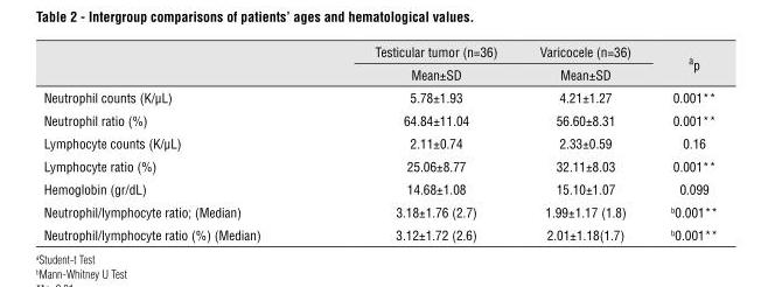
<table><thead><tr><td rowspan="2"></td><td rowspan="2">Testicular tumor (n=36) Mean±SD</td><td rowspan="2">Varicocele (n=36) Mean±SD</td><td rowspan="2"><sup>a</sup>p</td></tr><tr></tr></thead><tbody><tr><td>Neutrophil counts (K/µL)</td><td>5.78±1.93</td><td>4.21±1.27</td><td>0.001**</td></tr><tr><td>Neutrophil ratio (%)</td><td>64.84±11.04</td><td>56.60±8.31</td><td>0.001**</td></tr><tr><td>Lymphocyte counts (K/µL)</td><td>2.11±0.74</td><td>2.33±0.59</td><td>0.16</td></tr><tr><td>Lymphocyte ratio (%)</td><td>25.06±8.77</td><td>32.11±8.03</td><td>0.001**</td></tr><tr><td>Hemoglobin (gr/dL)</td><td>14.68±1.08</td><td>15.10±1.07</td><td>0.099</td></tr><tr><td>Neutrophil/lymphocyte ratio; (Median)</td><td>3.18±1.76 (2.7)</td><td>1.99±1.17 (1.8)</td><td><sup>b</sup>0.001**</td></tr><tr><td>Neutrophil/lymphocyte ratio (%) (Median)</td><td>3.12±1.72 (2.6)</td><td>2.01±1.18(1.7)</td><td><sup>b</sup>0.001**</td></tr></tbody></table>